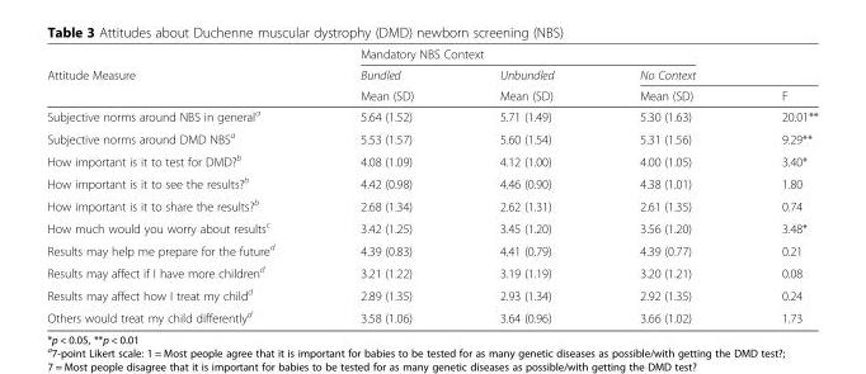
<table><thead><tr><td rowspan="3">Attitude Measure</td><td colspan="3">Mandatory NBS Context</td><td rowspan="3">F</td></tr><tr><td rowspan="2">Bundled Mean (SD)</td><td rowspan="2">Unbundled Mean (SD)</td><td rowspan="2">No Context Mean (SD)</td></tr><tr></tr></thead><tbody><tr><td>Subjective norms around NBS in general<sup>a</sup></td><td>5.64 (1.52)</td><td>5.71 (1.49)</td><td>5.30 (1.63)</td><td>20.01**</td></tr><tr><td>Subjective norms around DMD NBS<sup>a</sup></td><td>5.53 (1.57)</td><td>5.60 (1.54)</td><td>5.31 (1.56)</td><td>9.29**</td></tr><tr><td>How important is it to test for DMD?<sup>b</sup></td><td>4.08 (1.09)</td><td>4.12 (1.00)</td><td>4.00 (1.05)</td><td>3.40*</td></tr><tr><td>How important is it to see the results?<sup>b</sup></td><td>4.42 (0.98)</td><td>4.46 (0.90)</td><td>4.38 (1.01)</td><td>1.80</td></tr><tr><td>How important is it to share the results?<sup>b</sup></td><td>2.68 (1.34)</td><td>2.62 (1.31)</td><td>2.61 (1.35)</td><td>0.74</td></tr><tr><td>How much would you worry about results<sup>c</sup></td><td>3.42 (1.25)</td><td>3.45 (1.20)</td><td>3.56 (1.20)</td><td>3.48*</td></tr><tr><td>Results may help me prepare for the future<sup>d</sup></td><td>4.39 (0.83)</td><td>4.41 (0.79)</td><td>4.39 (0.77)</td><td>0.21</td></tr><tr><td>Results may affect if I have more children<sup>d</sup></td><td>3.21 (1.22)</td><td>3.19 (1.19)</td><td>3.20 (1.21)</td><td>0.08</td></tr><tr><td>Results may affect how I treat my child<sup>d</sup></td><td>2.89 (1.35)</td><td>2.93 (1.34)</td><td>2.92 (1.35)</td><td>0.24</td></tr><tr><td>Others would treat my child differently<sup>d</sup></td><td>3.58 (1.06)</td><td>3.64 (0.96)</td><td>3.66 (1.02)</td><td>1.73</td></tr></tbody></table>